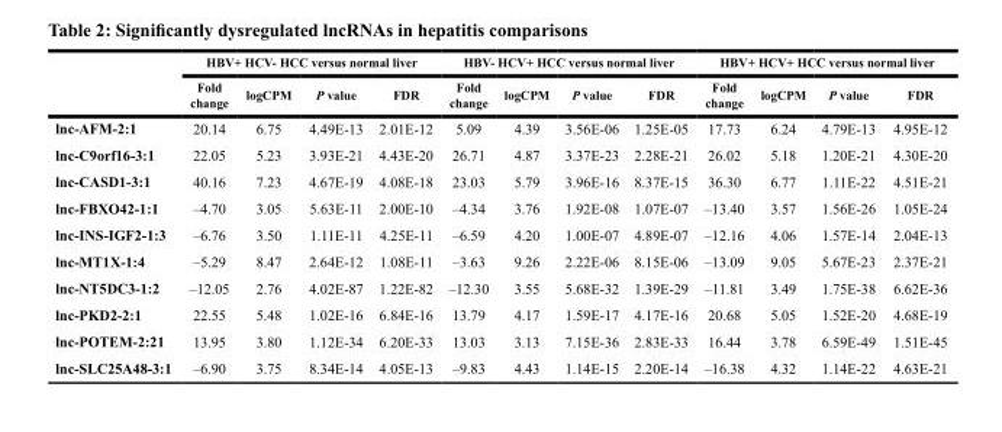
<table><thead><tr><td rowspan="2"></td><td colspan="4">HBV+ HCV- HCC versus normal liver</td><td colspan="4">HBV- HCV+ HCC versus normal liver</td><td colspan="4">HBV+ HCV+ HCC versus normal liver</td></tr><tr><td>Fold change</td><td>logCPM</td><td>P value</td><td>FDR</td><td>Fold change</td><td>logCPM</td><td>P value</td><td>FDR</td><td>Fold change</td><td>logCPM</td><td>P value</td><td>FDR</td></tr></thead><tbody><tr><td>lnc-AFM-2:1</td><td>20.14</td><td>6.75</td><td>4.49E-13</td><td>2.01E-12</td><td>5.09</td><td>4.39</td><td>3.56E-06</td><td>1.25E-05</td><td>17.73</td><td>6.24</td><td>4.79E-13</td><td>4.95E-12</td></tr><tr><td>lnc-C9orf16-3:1</td><td>22.05</td><td>5.23</td><td>3.93E-21</td><td>4.43E-20</td><td>26.71</td><td>4.87</td><td>3.37E-23</td><td>2.28E-21</td><td>26.02</td><td>5.18</td><td>1.20E-21</td><td>4.30E-20</td></tr><tr><td>lnc-CASD1-3:1</td><td>40.16</td><td>7.23</td><td>4.67E-19</td><td>4.08E-18</td><td>23.03</td><td>5.79</td><td>3.96E-16</td><td>8.37E-15</td><td>36.30</td><td>6.77</td><td>1.11E-22</td><td>4.51E-21</td></tr><tr><td>lnc-FBXO42-1:1</td><td>–4.70</td><td>3.05</td><td>5.63E-11</td><td>2.00E-10</td><td>–4.34</td><td>3.76</td><td>1.92E-08</td><td>1.07E-07</td><td>–13.40</td><td>3.57</td><td>1.56E-26</td><td>1.05E-24</td></tr><tr><td>lnc-INS-IGF2-1:3</td><td>–6.76</td><td>3.50</td><td>1.11E-11</td><td>4.25E-11</td><td>–6.59</td><td>4.20</td><td>1.00E-07</td><td>4.89E-07</td><td>–12.16</td><td>4.06</td><td>1.57E-14</td><td>2.04E-13</td></tr><tr><td>lnc-MT1X-1:4</td><td>–5.29</td><td>8.47</td><td>2.64E-12</td><td>1.08E-11</td><td>–3.63</td><td>9.26</td><td>2.22E-06</td><td>8.15E-06</td><td>–13.09</td><td>9.05</td><td>5.67E-23</td><td>2.37E-21</td></tr><tr><td>lnc-NT5DC3-1:2</td><td>–12.05</td><td>2.76</td><td>4.02E-87</td><td>1.22E-82</td><td>–12.30</td><td>3.55</td><td>5.68E-32</td><td>1.39E-29</td><td>–11.81</td><td>3.49</td><td>1.75E-38</td><td>6.62E-36</td></tr><tr><td>lnc-PKD2-2:1</td><td>22.55</td><td>5.48</td><td>1.02E-16</td><td>6.84E-16</td><td>13.79</td><td>4.17</td><td>1.59E-17</td><td>4.17E-16</td><td>20.68</td><td>5.05</td><td>1.52E-20</td><td>4.68E-19</td></tr><tr><td>lnc-POTEM-2:21</td><td>13.95</td><td>3.80</td><td>1.12E-34</td><td>6.20E-33</td><td>13.03</td><td>3.13</td><td>7.15E-36</td><td>2.83E-33</td><td>16.44</td><td>3.78</td><td>6.59E-49</td><td>1.51E-45</td></tr><tr><td>lnc-SLC25A48-3:1</td><td>–6.90</td><td>3.75</td><td>8.34E-14</td><td>4.05E-13</td><td>–9.83</td><td>4.43</td><td>1.14E-15</td><td>2.20E-14</td><td>–16.38</td><td>4.32</td><td>1.14E-22</td><td>4.63E-21</td></tr></tbody></table>